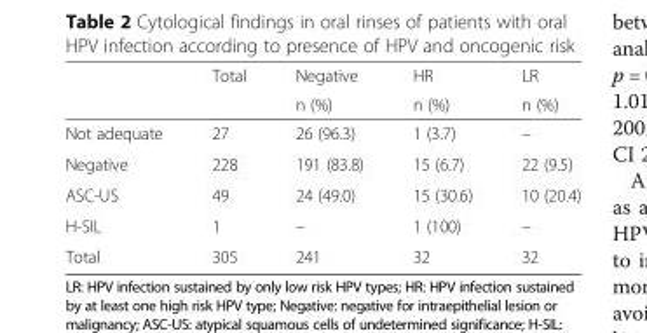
<table><thead><tr><td rowspan="2"></td><td rowspan="2">Total</td><td rowspan="2">Negative n (%)</td><td rowspan="2">HR n (%)</td><td rowspan="2">LR n (%)</td></tr><tr></tr></thead><tbody><tr><td>Not adequate</td><td>27</td><td>26 (96.3)</td><td>1 (3.7)</td><td>–</td></tr><tr><td>Negative</td><td>228</td><td>191 (83.8)</td><td>15 (6.7)</td><td>22 (9.5)</td></tr><tr><td>ASC-US</td><td>49</td><td>24 (49.0)</td><td>15 (30.6)</td><td>10 (20.4)</td></tr><tr><td>H-SIL</td><td>1</td><td>–</td><td>1 (100)</td><td>–</td></tr><tr><td>Total</td><td>305</td><td>241</td><td>32</td><td>32</td></tr></tbody></table>